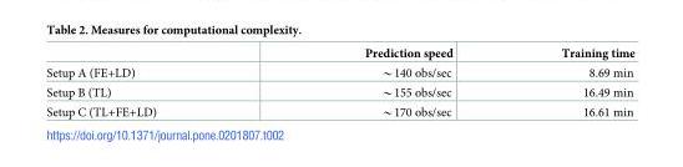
<table><thead><tr><td></td><td>Prediction speed</td><td>Training time</td></tr></thead><tbody><tr><td>Setup A (FE+LD)</td><td>*140 obs/sec</td><td>8.69 min</td></tr><tr><td>Setup B (TL)</td><td>*155 obs/sec</td><td>16.49 min</td></tr><tr><td>Setup C (TL+FE+LD)</td><td>*170 obs/sec</td><td>16.61 min</td></tr></tbody></table>